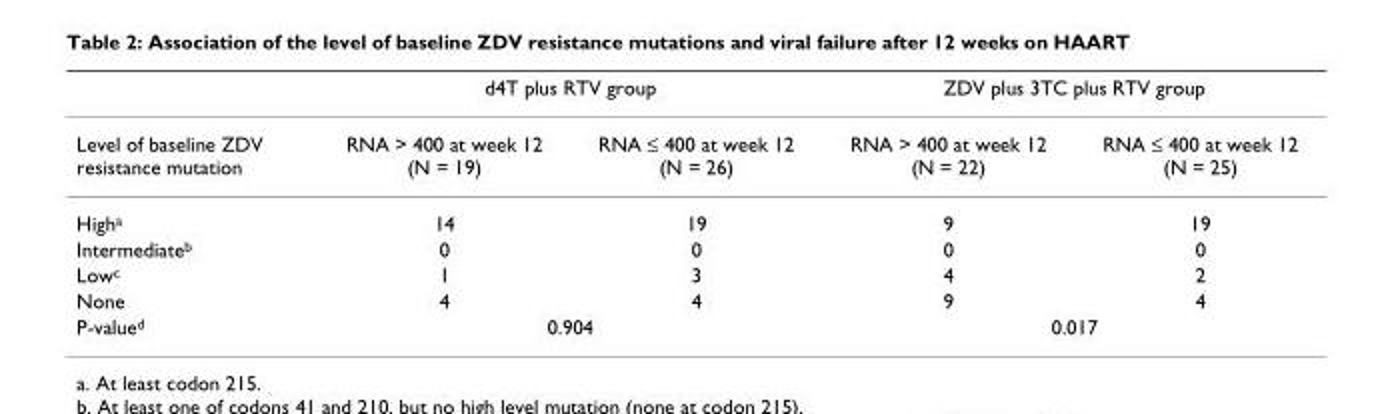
<table><thead><tr><td rowspan="2">Level of baseline ZDV resistance mutation</td><td colspan="2">d4T plus RTV group</td><td colspan="2">ZDV plus 3TC plus RTV group</td></tr><tr><td>RNA &gt; 400 at week 12 (N = 19)</td><td>RNA ≤ 400 at week 12 (N = 26)</td><td>RNA &gt; 400 at week 12 (N = 22)</td><td>RNA ≤ 400 at week 12 (N = 25)</td></tr></thead><tbody><tr><td>High<sup>a</sup></td><td>14</td><td>19</td><td>9</td><td>19</td></tr><tr><td>Intermediate<sup>b</sup></td><td>0</td><td>0</td><td>0</td><td>0</td></tr><tr><td>Low<sup>c</sup></td><td>1</td><td>3</td><td>4</td><td>2</td></tr><tr><td>None</td><td>4</td><td>4</td><td>9</td><td>4</td></tr><tr><td>P-value<sup>d</sup></td><td colspan="2">0.904</td><td colspan="2">0.017</td></tr></tbody></table>